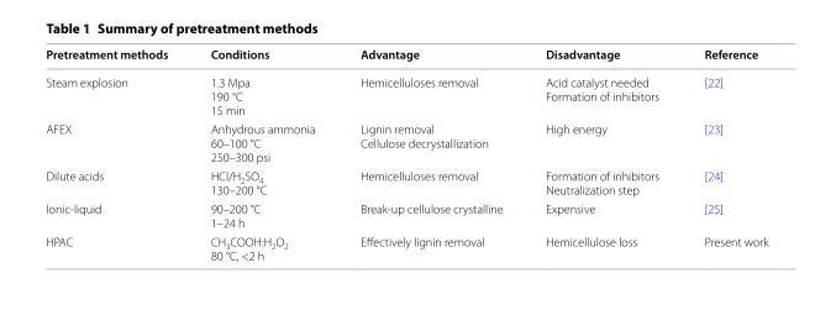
<table><thead><tr><td>Pretreatment methods</td><td>Conditions</td><td>Advantage</td><td>Disadvantage</td><td>Reference</td></tr></thead><tbody><tr><td>Steam explosion</td><td>1.3 Mpa 190 °C 15 min</td><td>Hemicelluloses removal</td><td>Acid catalyst needed Formation of inhibitors</td><td>[22]</td></tr><tr><td>AFEX</td><td>Anhydrous ammonia 60–100 °C 250–300 psi</td><td>Lignin removal Cellulose decrystallization</td><td>High energy</td><td>[23]</td></tr><tr><td>Dilute acids</td><td>HCl/H<sub>2</sub>SO<sub>4</sub> 130–200 °C</td><td>Hemicelluloses removal</td><td>Formation of inhibitors Neutralization step</td><td>[24]</td></tr><tr><td>Ionic‑liquid</td><td>90–200 °C 1–24 h</td><td>Break‑up cellulose crystalline</td><td>Expensive</td><td>[25]</td></tr><tr><td>HPAC</td><td>CH<sub>3</sub>COOH:H<sub>2</sub>O<sub>2</sub> 80 °C, &lt;2 h</td><td>Effectively lignin removal</td><td>Hemicellulose loss</td><td>Present work</td></tr></tbody></table>